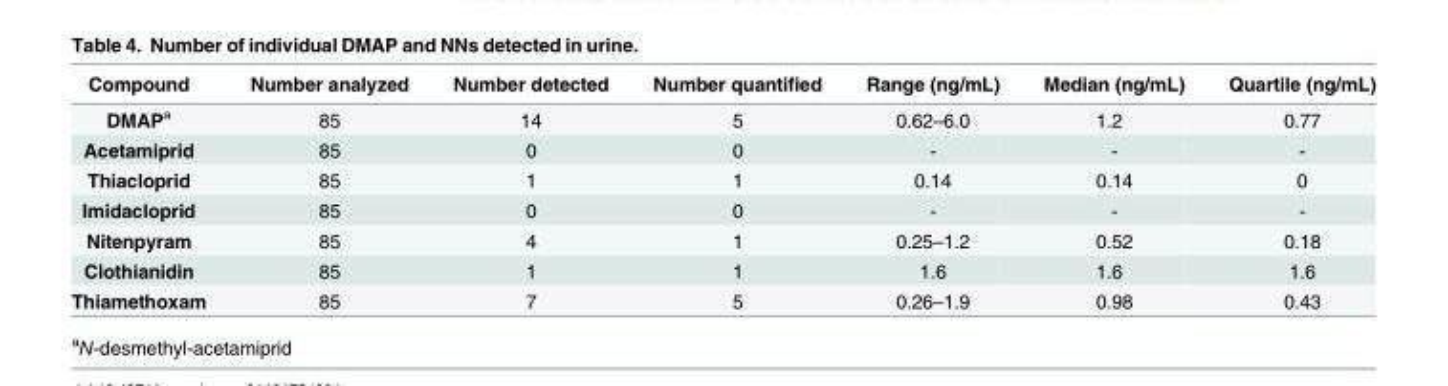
<table><thead><tr><td>Compound</td><td>Number analyzed</td><td>Number detected</td><td>Number quantified</td><td>Range (ng/mL)</td><td>Median (ng/mL)</td><td>Quartile (ng/mL)</td></tr></thead><tbody><tr><td>DMAP<sup>a</sup></td><td>85</td><td>14</td><td>5</td><td>0.62–6.0</td><td>1.2</td><td>0.77</td></tr><tr><td>Acetamiprid</td><td>85</td><td>0</td><td>0</td><td>-</td><td>-</td><td>-</td></tr><tr><td>Thiacloprid</td><td>85</td><td>1</td><td>1</td><td>0.14</td><td>0.14</td><td>0</td></tr><tr><td>Imidacloprid</td><td>85</td><td>0</td><td>0</td><td>-</td><td>-</td><td>-</td></tr><tr><td>Nitenpyram</td><td>85</td><td>4</td><td>1</td><td>0.25–1.2</td><td>0.52</td><td>0.18</td></tr><tr><td>Clothianidin</td><td>85</td><td>1</td><td>1</td><td>1.6</td><td>1.6</td><td>1.6</td></tr><tr><td>Thiamethoxam</td><td>85</td><td>7</td><td>5</td><td>0.26–1.9</td><td>0.98</td><td>0.43</td></tr></tbody></table>